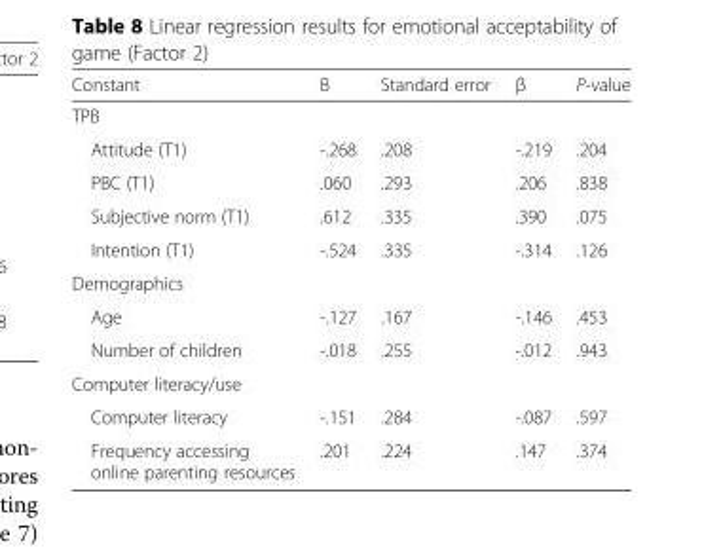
<table><thead><tr><td>Constant</td><td>B</td><td>Standard error</td><td>β</td><td>P-value</td></tr></thead><tbody><tr><td colspan="5">TPB</td></tr><tr><td>Attitude (T1)</td><td>-.268</td><td>.208</td><td>-.219</td><td>.204</td></tr><tr><td>PBC (T1)</td><td>.060</td><td>.293</td><td>.206</td><td>.838</td></tr><tr><td>Subjective norm (T1)</td><td>.612</td><td>.335</td><td>.390</td><td>.075</td></tr><tr><td>Intention (T1)</td><td>-.524</td><td>.335</td><td>-.314</td><td>.126</td></tr><tr><td colspan="5">Demographics</td></tr><tr><td>Age</td><td>-.127</td><td>.167</td><td>-.146</td><td>.453</td></tr><tr><td>Number of children</td><td>-.018</td><td>.255</td><td>-.012</td><td>.943</td></tr><tr><td colspan="5">Computer literacy/use</td></tr><tr><td>Computer literacy</td><td>-.151</td><td>.284</td><td>-.087</td><td>.597</td></tr><tr><td>Frequency accessing online parenting resources</td><td>.201</td><td>.224</td><td>.147</td><td>.374</td></tr></tbody></table>